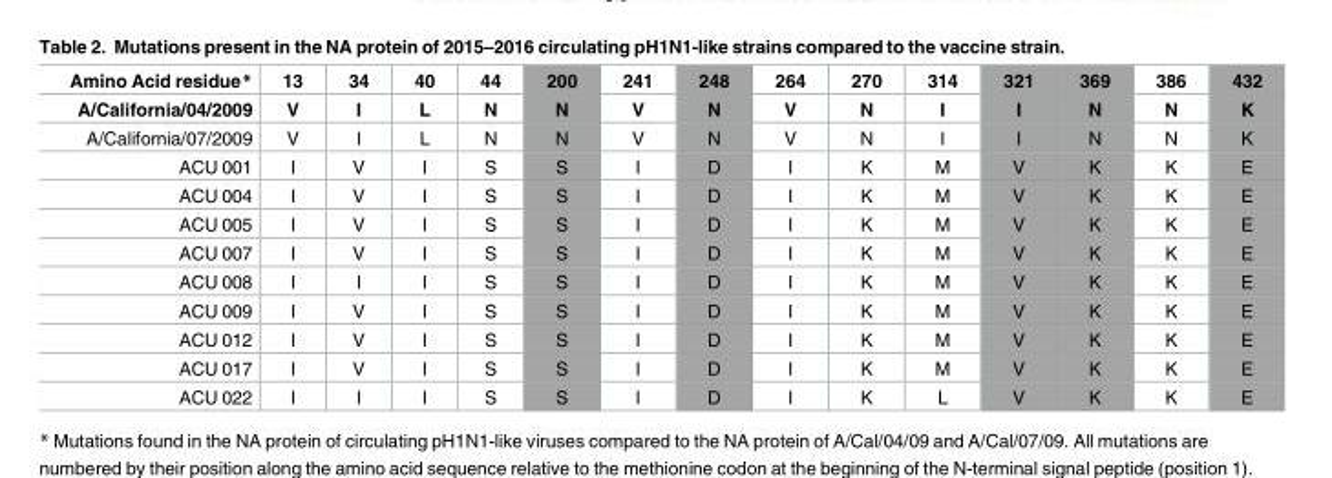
<table><thead><tr><td>Amino Acid residue*</td><td>13</td><td>34</td><td>40</td><td>44</td><td>200</td><td>241</td><td>248</td><td>264</td><td>270</td><td>314</td><td>321</td><td>369</td><td>386</td><td>432</td></tr></thead><tbody><tr><td>A/California/04/2009</td><td>V</td><td>I</td><td>L</td><td>N</td><td>N</td><td>V</td><td>N</td><td>V</td><td>N</td><td>I</td><td>I</td><td>N</td><td>N</td><td>K</td></tr><tr><td>A/California/07/2009</td><td>V</td><td>I</td><td>L</td><td>N</td><td>N</td><td>V</td><td>N</td><td>V</td><td>N</td><td>I</td><td>I</td><td>N</td><td>N</td><td>K</td></tr><tr><td>ACU 001</td><td>I</td><td>V</td><td>I</td><td>S</td><td>S</td><td>I</td><td>D</td><td>I</td><td>K</td><td>M</td><td>V</td><td>K</td><td>K</td><td>E</td></tr><tr><td>ACU 004</td><td>I</td><td>V</td><td>I</td><td>S</td><td>S</td><td>I</td><td>D</td><td>I</td><td>K</td><td>M</td><td>V</td><td>K</td><td>K</td><td>E</td></tr><tr><td>ACU 005</td><td>I</td><td>V</td><td>I</td><td>S</td><td>S</td><td>I</td><td>D</td><td>I</td><td>K</td><td>M</td><td>V</td><td>K</td><td>K</td><td>E</td></tr><tr><td>ACU 007</td><td>I</td><td>V</td><td>I</td><td>S</td><td>S</td><td>I</td><td>D</td><td>I</td><td>K</td><td>M</td><td>V</td><td>K</td><td>K</td><td>E</td></tr><tr><td>ACU 008</td><td>I</td><td>I</td><td>I</td><td>S</td><td>S</td><td>I</td><td>D</td><td>I</td><td>K</td><td>M</td><td>V</td><td>K</td><td>K</td><td>E</td></tr><tr><td>ACU 009</td><td>I</td><td>V</td><td>I</td><td>S</td><td>S</td><td>I</td><td>D</td><td>I</td><td>K</td><td>M</td><td>V</td><td>K</td><td>K</td><td>E</td></tr><tr><td>ACU 012</td><td>I</td><td>V</td><td>I</td><td>S</td><td>S</td><td>I</td><td>D</td><td>I</td><td>K</td><td>M</td><td>V</td><td>K</td><td>K</td><td>E</td></tr><tr><td>ACU 017</td><td>I</td><td>V</td><td>I</td><td>S</td><td>S</td><td>I</td><td>D</td><td>I</td><td>K</td><td>M</td><td>V</td><td>K</td><td>K</td><td>E</td></tr><tr><td>ACU 022</td><td>I</td><td>I</td><td>I</td><td>S</td><td>S</td><td>I</td><td>D</td><td>I</td><td>K</td><td>L</td><td>V</td><td>K</td><td>K</td><td>E</td></tr></tbody></table>